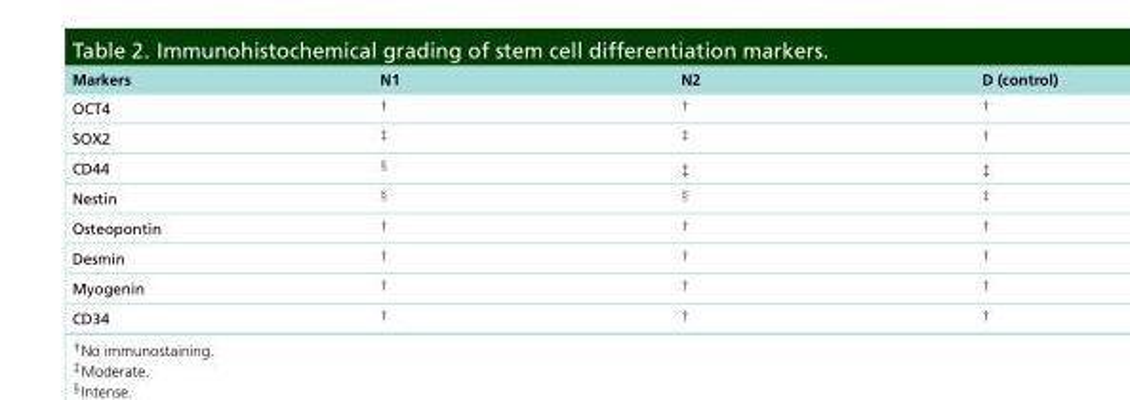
<table><thead><tr><td>Markers</td><td>N1</td><td>N2</td><td>D (control)</td></tr></thead><tbody><tr><td>OCT4</td><td>†</td><td>†</td><td>†</td></tr><tr><td>SOX2</td><td><sup>‡</sup></td><td>‡</td><td>†</td></tr><tr><td>CD44</td><td><sup>§</sup></td><td>‡</td><td>‡</td></tr><tr><td>Nestin</td><td><sup>§</sup></td><td>§</td><td>‡</td></tr><tr><td>Osteopontin</td><td><sup>†</sup></td><td>†</td><td>†</td></tr><tr><td>Desmin</td><td><sup>†</sup></td><td>†</td><td>†</td></tr><tr><td>Myogenin</td><td><sup>†</sup></td><td>†</td><td>†</td></tr><tr><td>CD34</td><td><sup>†</sup></td><td>†</td><td>†</td></tr></tbody></table>